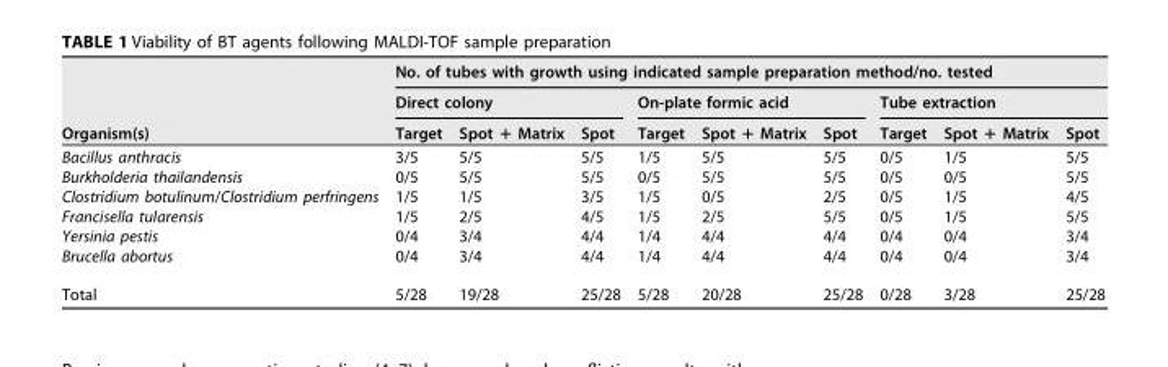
<table><thead><tr><td rowspan="3">Organism(s)</td><td colspan="9">No. of tubes with growth using indicated sample preparation method/no. tested</td></tr><tr><td colspan="3">Direct colony</td><td colspan="3">On-plate formic acid</td><td colspan="3">Tube extraction</td></tr><tr><td>Target</td><td>Spot + Matrix</td><td>Spot</td><td>Target</td><td>Spot + Matrix</td><td>Spot</td><td>Target</td><td>Spot + Matrix</td><td>Spot</td></tr></thead><tbody><tr><td>Bacillus anthracis</td><td>3/5</td><td>5/5</td><td>5/5</td><td>1/5</td><td>5/5</td><td>5/5</td><td>0/5</td><td>1/5</td><td>5/5</td></tr><tr><td>Burkholderia thailandensis</td><td>0/5</td><td>5/5</td><td>5/5</td><td>0/5</td><td>5/5</td><td>5/5</td><td>0/5</td><td>0/5</td><td>5/5</td></tr><tr><td>Clostridium botulinum/Clostridium perfringens</td><td>1/5</td><td>1/5</td><td>3/5</td><td>1/5</td><td>0/5</td><td>2/5</td><td>0/5</td><td>1/5</td><td>4/5</td></tr><tr><td>Francisella tularensis</td><td>1/5</td><td>2/5</td><td>4/5</td><td>1/5</td><td>2/5</td><td>5/5</td><td>0/5</td><td>1/5</td><td>5/5</td></tr><tr><td>Yersinia pestis</td><td>0/4</td><td>3/4</td><td>4/4</td><td>1/4</td><td>4/4</td><td>4/4</td><td>0/4</td><td>0/4</td><td>3/4</td></tr><tr><td>Brucella abortus</td><td>0/4</td><td>3/4</td><td>4/4</td><td>1/4</td><td>4/4</td><td>4/4</td><td>0/4</td><td>0/4</td><td>3/4</td></tr><tr><td>Total</td><td>5/28</td><td>19/28</td><td>25/28</td><td>5/28</td><td>20/28</td><td>25/28</td><td>0/28</td><td>3/28</td><td>25/28</td></tr></tbody></table>